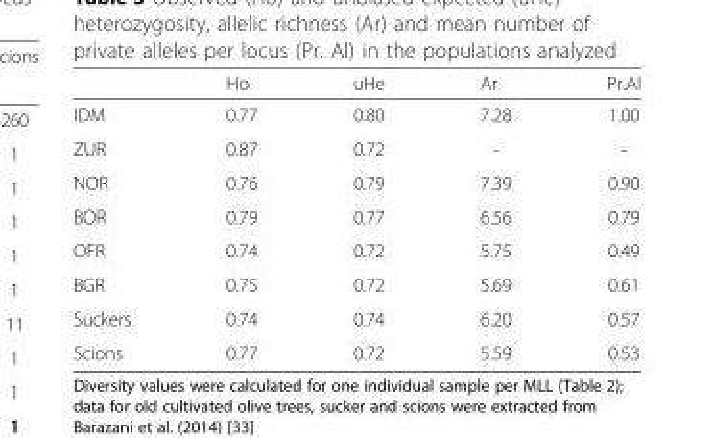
<table><thead><tr><td></td><td>Ho</td><td>uHe</td><td>Ar</td><td>Pr.Al</td></tr></thead><tbody><tr><td>IDM</td><td>0.77</td><td>0.80</td><td>7.28</td><td>1.00</td></tr><tr><td>ZUR</td><td>0.87</td><td>0.72</td><td>-</td><td>-</td></tr><tr><td>NOR</td><td>0.76</td><td>0.79</td><td>7.39</td><td>0.90</td></tr><tr><td>BOR</td><td>0.79</td><td>0.77</td><td>6.56</td><td>0.79</td></tr><tr><td>OFR</td><td>0.74</td><td>0.72</td><td>5.75</td><td>0.49</td></tr><tr><td>BGR</td><td>0.75</td><td>0.72</td><td>5.69</td><td>0.61</td></tr><tr><td>Suckers</td><td>0.74</td><td>0.74</td><td>6.20</td><td>0.57</td></tr><tr><td>Scions</td><td>0.77</td><td>0.72</td><td>5.59</td><td>0.53</td></tr></tbody></table>